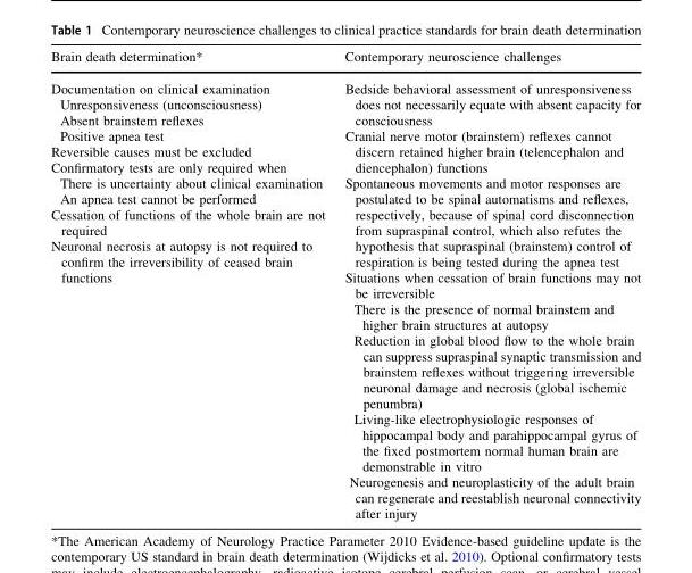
<table><thead><tr><td>Brain death determination*</td><td>Contemporary neuroscience challenges</td></tr></thead><tbody><tr><td>Documentation on clinical examination Unresponsiveness (unconsciousness) Absent brainstem reflexes Positive apnea test Reversible causes must be excluded Confirmatory tests are only required when There is uncertainty about clinical examination An apnea test cannot be performed Cessation of functions of the whole brain are not required Neuronal necrosis at autopsy is not required to confirm the irreversibility of ceased brain functions</td><td>Bedside behavioral assessment of unresponsiveness does not necessarily equate with absent capacity for consciousness Cranial nerve motor (brainstem) reflexes cannot discern retained higher brain (telencephalon and diencephalon) functions Spontaneous movements and motor responses are postulated to be spinal automatisms and reflexes, respectively, because of spinal cord disconnection from supraspinal control, which also refutes the hypothesis that supraspinal (brainstem) control of respiration is being tested during the apnea test Situations when cessation of brain functions may not be irreversible There is the presence of normal brainstem and higher brain structures at autopsy Reduction in global blood flow to the whole brain can suppress supraspinal synaptic transmission and brainstem reflexes without triggering irreversible neuronal damage and necrosis (global ischemic penumbra) Living-like electrophysiologic responses of hippocampal body and parahippocampal gyrus of the fixed postmortem normal human brain are demonstrable in vitro Neurogenesis and neuroplasticity of the adult brain can regenerate and reestablish neuronal connectivity after injury</td></tr></tbody></table>